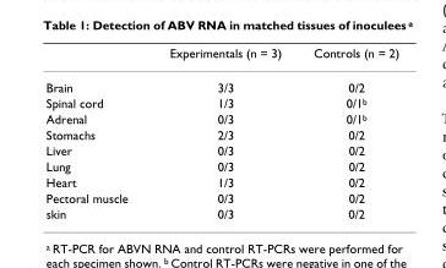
<table><thead><tr><td></td><td>Experimentals (n = 3)</td><td>Controls (n = 2)</td></tr></thead><tbody><tr><td>Brain</td><td>3/3</td><td>0/2</td></tr><tr><td>Spinal cord</td><td>1/3</td><td>0/1<sup>b</sup></td></tr><tr><td>Adrenal</td><td>0/3</td><td>0/1<sup>b</sup></td></tr><tr><td>Stomachs</td><td>2/3</td><td>0/2</td></tr><tr><td>Liver</td><td>0/3</td><td>0/2</td></tr><tr><td>Lung</td><td>0/3</td><td>0/2</td></tr><tr><td>Heart</td><td>1/3</td><td>0/2</td></tr><tr><td>Pectoral muscle</td><td>0/3</td><td>0/2</td></tr><tr><td>skin</td><td>0/3</td><td>0/2</td></tr></tbody></table>